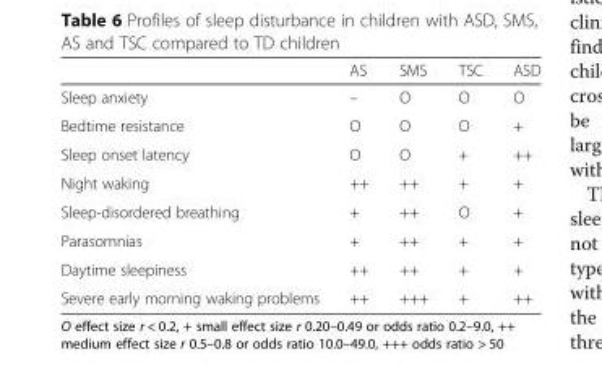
<table><thead><tr><td></td><td>AS</td><td>SMS</td><td>TSC</td><td>ASD</td></tr></thead><tbody><tr><td>Sleep anxiety</td><td>–</td><td>O</td><td>O</td><td>O</td></tr><tr><td>Bedtime resistance</td><td>O</td><td>O</td><td>O</td><td>+</td></tr><tr><td>Sleep onset latency</td><td>O</td><td>O</td><td>+</td><td>++</td></tr><tr><td>Night waking</td><td>++</td><td>++</td><td>+</td><td>+</td></tr><tr><td>Sleep-disordered breathing</td><td>+</td><td>++</td><td>O</td><td>+</td></tr><tr><td>Parasomnias</td><td>+</td><td>++</td><td>+</td><td>+</td></tr><tr><td>Daytime sleepiness</td><td>++</td><td>++</td><td>+</td><td>+</td></tr><tr><td>Severe early morning waking problems</td><td>++</td><td>+++</td><td>+</td><td>++</td></tr></tbody></table>